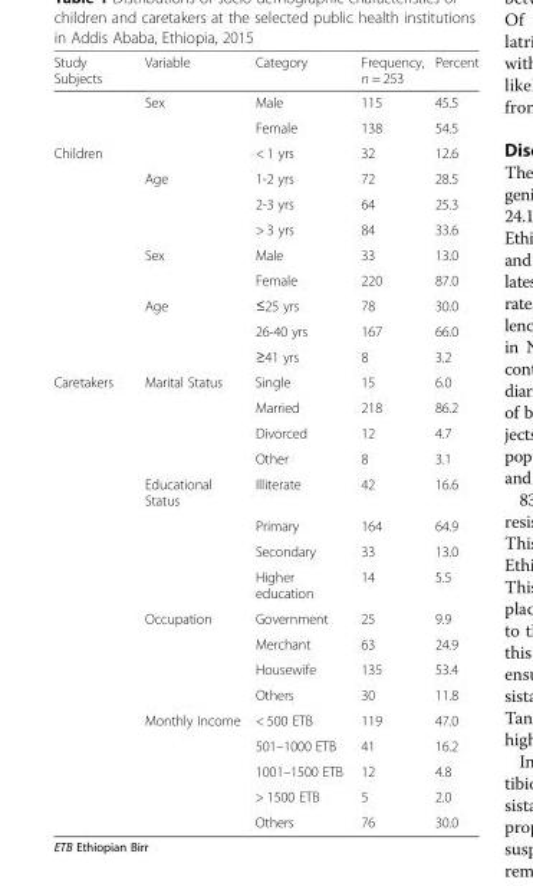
<table><thead><tr><td>Study Subjects</td><td>Variable</td><td>Category</td><td>Frequency, n = 253</td><td>Percent</td></tr></thead><tbody><tr><td></td><td>Sex</td><td>Male</td><td>115</td><td>45.5</td></tr><tr><td></td><td></td><td>Female</td><td>138</td><td>54.5</td></tr><tr><td rowspan="9">Children</td><td></td><td>&lt; 1 yrs</td><td>32</td><td>12.6</td></tr><tr><td>Age</td><td>1-2 yrs</td><td>72</td><td>28.5</td></tr><tr><td></td><td>2-3 yrs</td><td>64</td><td>25.3</td></tr><tr><td></td><td>&gt; 3 yrs</td><td>84</td><td>33.6</td></tr><tr><td>Sex</td><td>Male</td><td>33</td><td>13.0</td></tr><tr><td></td><td>Female</td><td>220</td><td>87.0</td></tr><tr><td>Age</td><td>≤25 yrs</td><td>78</td><td>30.0</td></tr><tr><td></td><td>26-40 yrs</td><td>167</td><td>66.0</td></tr><tr><td></td><td>≥41 yrs</td><td>8</td><td>3.2</td></tr><tr><td rowspan="17">Caretakers</td><td>Marital Status</td><td>Single</td><td>15</td><td>6.0</td></tr><tr><td></td><td>Married</td><td>218</td><td>86.2</td></tr><tr><td></td><td>Divorced</td><td>12</td><td>4.7</td></tr><tr><td></td><td>Other</td><td>8</td><td>3.1</td></tr><tr><td>Educational Status</td><td>Illiterate</td><td>42</td><td>16.6</td></tr><tr><td></td><td>Primary</td><td>164</td><td>64.9</td></tr><tr><td></td><td>Secondary</td><td>33</td><td>13.0</td></tr><tr><td></td><td>Higher education</td><td>14</td><td>5.5</td></tr><tr><td>Occupation</td><td>Government</td><td>25</td><td>9.9</td></tr><tr><td></td><td>Merchant</td><td>63</td><td>24.9</td></tr><tr><td></td><td>Housewife</td><td>135</td><td>53.4</td></tr><tr><td></td><td>Others</td><td>30</td><td>11.8</td></tr><tr><td>Monthly Income</td><td>&lt; 500 ETB</td><td>119</td><td>47.0</td></tr><tr><td></td><td>501–1000 ETB</td><td>41</td><td>16.2</td></tr><tr><td></td><td>1001–1500 ETB</td><td>12</td><td>4.8</td></tr><tr><td></td><td>&gt; 1500 ETB</td><td>5</td><td>2.0</td></tr><tr><td></td><td>Others</td><td>76</td><td>30.0</td></tr></tbody></table>